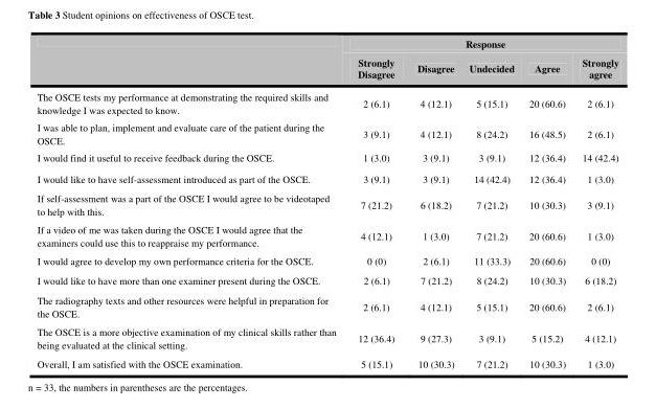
<table><thead><tr><td rowspan="2"></td><td colspan="5">Response</td></tr><tr><td>Strongly Disagree</td><td>Disagree</td><td>Undecided</td><td>Agree</td><td>Strongly agree</td></tr></thead><tbody><tr><td>The OSCE tests my performance at demonstrating the required skills and knowledge I was expected to know.</td><td>2 (6.1)</td><td>4 (12.1)</td><td>5 (15.1)</td><td>20 (60.6)</td><td>2 (6.1)</td></tr><tr><td>I was able to plan, implement and evaluate care of the patient during the OSCE.</td><td>3 (9.1)</td><td>4 (12.1)</td><td>8 (24.2)</td><td>16 (48.5)</td><td>2 (6.1)</td></tr><tr><td>I would find it useful to receive feedback during the OSCE.</td><td>1 (3.0)</td><td>3 (9.1)</td><td>3 (9.1)</td><td>12 (36.4)</td><td>14 (42.4)</td></tr><tr><td>I would like to have self-assessment introduced as part of the OSCE.</td><td>3 (9.1)</td><td>3 (9.1)</td><td>14 (42.4)</td><td>12 (36.4)</td><td>1 (3.0)</td></tr><tr><td>If self-assessment was a part of the OSCE I would agree to be videotaped to help with this.</td><td>7 (21.2)</td><td>6 (18.2)</td><td>7 (21.2)</td><td>10 (30.3)</td><td>3 (9.1)</td></tr><tr><td>If a video of me was taken during the OSCE I would agree that the examiners could use this to reappraise my performance.</td><td>4 (12.1)</td><td>1 (3.0)</td><td>7 (21.2)</td><td>20 (60.6)</td><td>1 (3.0)</td></tr><tr><td>I would agree to develop my own performance criteria for the OSCE.</td><td>0 (0)</td><td>2 (6.1)</td><td>11 (33.3)</td><td>20 (60.6)</td><td>0 (0)</td></tr><tr><td>I would like to have more than one examiner present during the OSCE.</td><td>2 (6.1)</td><td>7 (21.2)</td><td>8 (24.2)</td><td>10 (30.3)</td><td>6 (18.2)</td></tr><tr><td>The radiography texts and other resources were helpful in preparation for the OSCE.</td><td>2 (6.1)</td><td>4 (12.1)</td><td>5 (15.1)</td><td>20 (60.6)</td><td>2 (6.1)</td></tr><tr><td>The OSCE is a more objective examination of my clinical skills rather than being evaluated at the clinical setting.</td><td>12 (36.4)</td><td>9 (27.3)</td><td>3 (9.1)</td><td>5 (15.2)</td><td>4 (12.1)</td></tr><tr><td>Overall, I am satisfied with the OSCE examination.</td><td>5 (15.1)</td><td>10 (30.3)</td><td>7 (21.2)</td><td>10 (30.3)</td><td>1 (3.0)</td></tr></tbody></table>